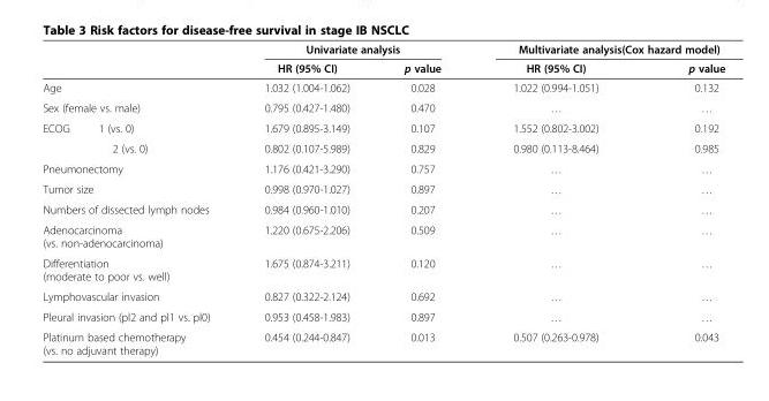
<table><thead><tr><td rowspan="2"></td><td colspan="2">Univariate analysis</td><td colspan="2">Multivariate analysis(Cox hazard model)</td></tr><tr><td>HR (95% CI)</td><td>p value</td><td>HR (95% CI)</td><td>p value</td></tr></thead><tbody><tr><td>Age</td><td>1.032 (1.004-1.062)</td><td>0.028</td><td>1.022 (0.994-1.051)</td><td>0.132</td></tr><tr><td>Sex (female vs. male)</td><td>0.795 (0.427-1.480)</td><td>0.470</td><td>…</td><td>…</td></tr><tr><td>ECOG 1 (vs. 0)</td><td>1.679 (0.895-3.149)</td><td>0.107</td><td>1.552 (0.802-3.002)</td><td>0.192</td></tr><tr><td>2 (vs. 0)</td><td>0.802 (0.107-5.989)</td><td>0.829</td><td>0.980 (0.113-8.464)</td><td>0.985</td></tr><tr><td>Pneumonectomy</td><td>1.176 (0.421-3.290)</td><td>0.757</td><td>…</td><td>…</td></tr><tr><td>Tumor size</td><td>0.998 (0.970-1.027)</td><td>0.897</td><td>…</td><td>…</td></tr><tr><td>Numbers of dissected lymph nodes</td><td>0.984 (0.960-1.010)</td><td>0.207</td><td>…</td><td>…</td></tr><tr><td>Adenocarcinoma (vs. non-adenocarcinoma)</td><td>1.220 (0.675-2.206)</td><td>0.509</td><td>…</td><td>…</td></tr><tr><td>Differentiation (moderate to poor vs. well)</td><td>1.675 (0.874-3.211)</td><td>0.120</td><td>…</td><td>…</td></tr><tr><td>Lymphovascular invasion</td><td>0.827 (0.322-2.124)</td><td>0.692</td><td>…</td><td>…</td></tr><tr><td>Pleural invasion (pl2 and pl1 vs. pl0)</td><td>0.953 (0.458-1.983)</td><td>0.897</td><td>…</td><td>…</td></tr><tr><td>Platinum based chemotherapy (vs. no adjuvant therapy)</td><td>0.454 (0.244-0.847)</td><td>0.013</td><td>0.507 (0.263-0.978)</td><td>0.043</td></tr></tbody></table>